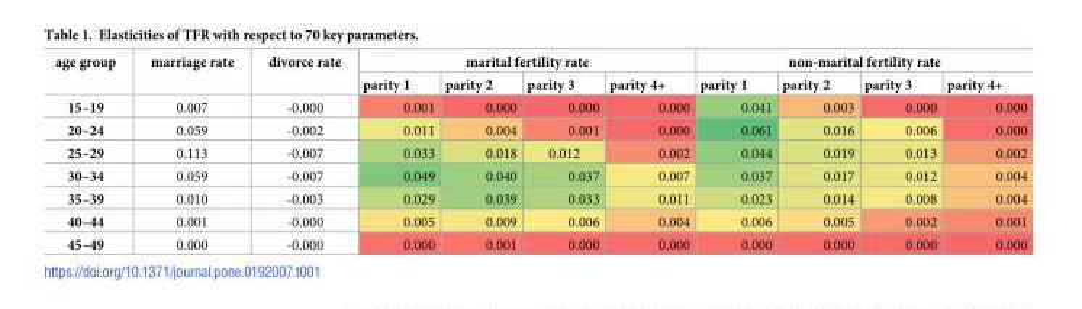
<table><thead><tr><td rowspan="2">age group</td><td rowspan="2">marriage rate</td><td rowspan="2">divorce rate</td><td colspan="4">marital fertility rate</td><td colspan="4">non-marital fertility rate</td></tr><tr><td>parity 1</td><td>parity 2</td><td>parity 3</td><td>parity 4+</td><td>parity 1</td><td>parity 2</td><td>parity 3</td><td>parity 4+</td></tr></thead><tbody><tr><td>15–19</td><td>0.007</td><td>-0.000</td><td>0.001</td><td>0.000</td><td>0.000</td><td>0.000</td><td>0.041</td><td>0.003</td><td>0.000</td><td>0.000</td></tr><tr><td>20–24</td><td>0.059</td><td>-0.002</td><td>0.011</td><td>0.004</td><td>0.001</td><td>0.000</td><td>0.061</td><td>0.016</td><td>0.006</td><td>0.000</td></tr><tr><td>25–29</td><td>0.113</td><td>-0.007</td><td>0.033</td><td>0.018</td><td>0.012</td><td>0.002</td><td>0.044</td><td>0.019</td><td>0.013</td><td>0.002</td></tr><tr><td>30–34</td><td>0.059</td><td>-0.007</td><td>0.049</td><td>0.040</td><td>0.037</td><td>0.007</td><td>0.037</td><td>0.017</td><td>0.012</td><td>0.004</td></tr><tr><td>35–39</td><td>0.010</td><td>-0.003</td><td>0.029</td><td>0.039</td><td>0.033</td><td>0.011</td><td>0.023</td><td>0.014</td><td>0.008</td><td>0.004</td></tr><tr><td>40–44</td><td>0.001</td><td>-0.000</td><td>0.005</td><td>0.009</td><td>0.006</td><td>0.004</td><td>0.006</td><td>0.005</td><td>0.002</td><td>0.001</td></tr><tr><td>45–49</td><td>0.000</td><td>-0.000</td><td>0.000</td><td>0.001</td><td>0.000</td><td>0.000</td><td>0.000</td><td>0.000</td><td>0.000</td><td>0.000</td></tr></tbody></table>